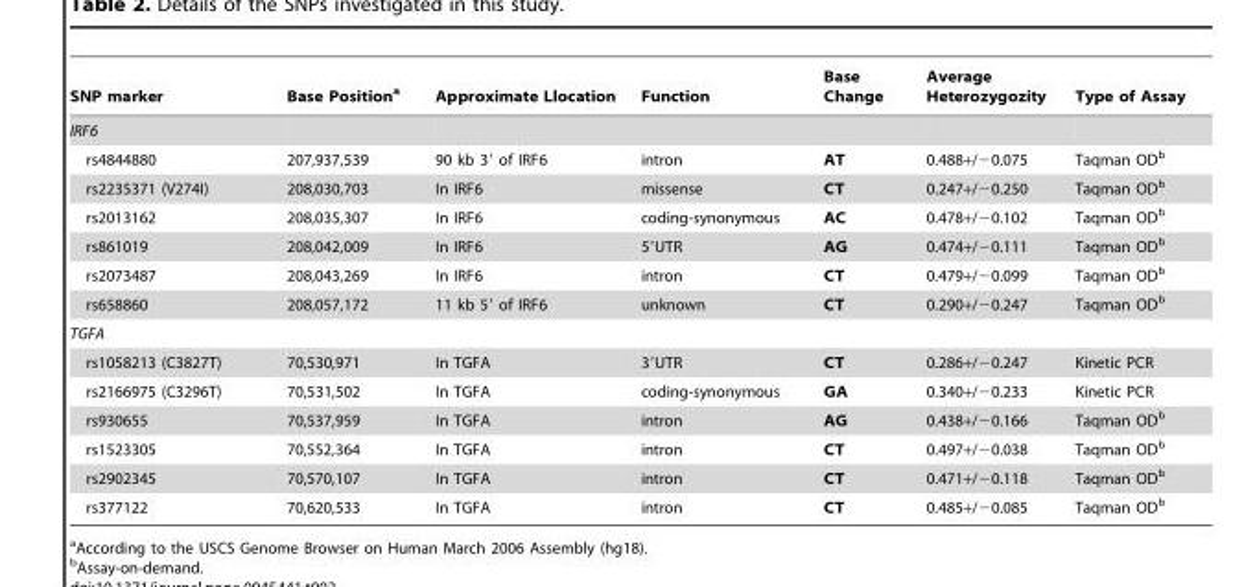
<table><thead><tr><td>SNP marker</td><td>Base Position<sup>a</sup></td><td>Approximate Llocation</td><td>Function</td><td>Base Change</td><td>Average Heterozygozity</td><td>Type of Assay</td></tr></thead><tbody><tr><td colspan="7">IRF6</td></tr><tr><td>rs4844880</td><td>207,937,539</td><td>90 kb 3′ of IRF6</td><td>intron</td><td>AT</td><td>0.488+/−0.075</td><td>Taqman OD<sup>b</sup></td></tr><tr><td>rs2235371 (V274I)</td><td>208,030,703</td><td>In IRF6</td><td>missense</td><td>CT</td><td>0.247+/−0.250</td><td>Taqman OD<sup>b</sup></td></tr><tr><td>rs2013162</td><td>208,035,307</td><td>In IRF6</td><td>coding-synonymous</td><td>AC</td><td>0.478+/−0.102</td><td>Taqman OD<sup>b</sup></td></tr><tr><td>rs861019</td><td>208,042,009</td><td>In IRF6</td><td>5′UTR</td><td>AG</td><td>0.474+/−0.111</td><td>Taqman OD<sup>b</sup></td></tr><tr><td>rs2073487</td><td>208,043,269</td><td>In IRF6</td><td>intron</td><td>CT</td><td>0.479+/−0.099</td><td>Taqman OD<sup>b</sup></td></tr><tr><td>rs658860</td><td>208,057,172</td><td>11 kb 5′ of IRF6</td><td>unknown</td><td>CT</td><td>0.290+/−0.247</td><td>Taqman OD<sup>b</sup></td></tr><tr><td colspan="7">TGFA</td></tr><tr><td>rs1058213 (C3827T)</td><td>70,530,971</td><td>In TGFA</td><td>3′UTR</td><td>CT</td><td>0.286+/−0.247</td><td>Kinetic PCR</td></tr><tr><td>rs2166975 (C3296T)</td><td>70,531,502</td><td>In TGFA</td><td>coding-synonymous</td><td>GA</td><td>0.340+/−0.233</td><td>Kinetic PCR</td></tr><tr><td>rs930655</td><td>70,537,959</td><td>In TGFA</td><td>intron</td><td>AG</td><td>0.438+/−0.166</td><td>Taqman OD<sup>b</sup></td></tr><tr><td>rs1523305</td><td>70,552,364</td><td>In TGFA</td><td>intron</td><td>CT</td><td>0.497+/−0.038</td><td>Taqman OD<sup>b</sup></td></tr><tr><td>rs2902345</td><td>70,570,107</td><td>In TGFA</td><td>intron</td><td>CT</td><td>0.471+/−0.118</td><td>Taqman OD<sup>b</sup></td></tr><tr><td>rs377122</td><td>70,620,533</td><td>In TGFA</td><td>intron</td><td>CT</td><td>0.485+/−0.085</td><td>Taqman OD<sup>b</sup></td></tr></tbody></table>